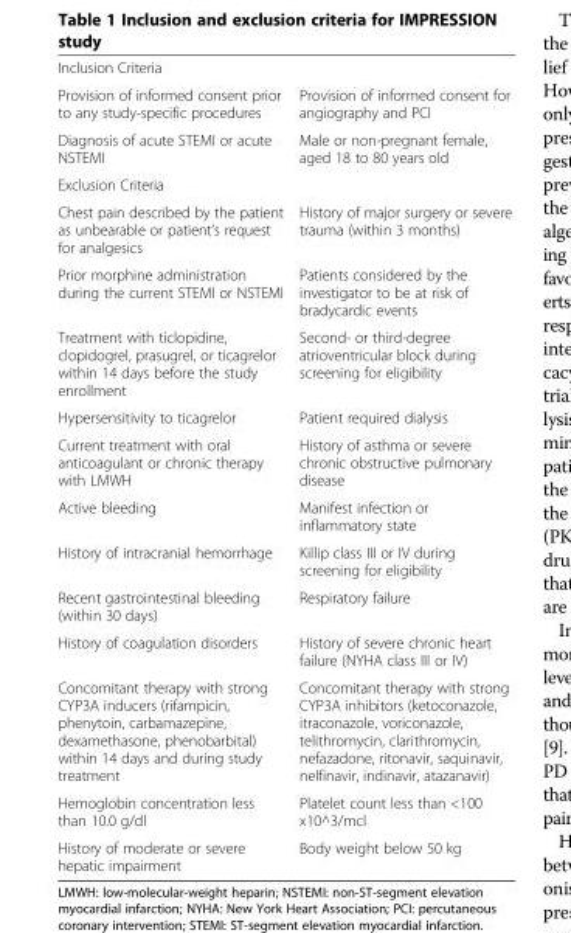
<table><tbody><tr><td colspan="2">Inclusion Criteria</td></tr><tr><td>Provision of informed consent prior to any study-specific procedures</td><td>Provision of informed consent for angiography and PCI</td></tr><tr><td>Diagnosis of acute STEMI or acute NSTEMI</td><td>Male or non-pregnant female, aged 18 to 80 years old</td></tr><tr><td colspan="2">Exclusion Criteria</td></tr><tr><td>Chest pain described by the patient as unbearable or patient’s request for analgesics</td><td>History of major surgery or severe trauma (within 3 months)</td></tr><tr><td>Prior morphine administration during the current STEMI or NSTEMI</td><td>Patients considered by the investigator to be at risk of bradycardic events</td></tr><tr><td>Treatment with ticlopidine, clopidogrel, prasugrel, or ticagrelor within 14 days before the study enrollment</td><td>Second- or third-degree atrioventricular block during screening for eligibility</td></tr><tr><td>Hypersensitivity to ticagrelor</td><td>Patient required dialysis</td></tr><tr><td>Current treatment with oral anticoagulant or chronic therapy with LMWH</td><td>History of asthma or severe chronic obstructive pulmonary disease</td></tr><tr><td>Active bleeding</td><td>Manifest infection or inflammatory state</td></tr><tr><td>History of intracranial hemorrhage</td><td>Killip class III or IV during screening for eligibility</td></tr><tr><td>Recent gastrointestinal bleeding (within 30 days)</td><td>Respiratory failure</td></tr><tr><td>History of coagulation disorders</td><td>History of severe chronic heart failure (NYHA class III or IV)</td></tr><tr><td>Concomitant therapy with strong CYP3A inducers (rifampicin, phenytoin, carbamazepine, dexamethasone, phenobarbital) within 14 days and during study treatment</td><td>Concomitant therapy with strong CYP3A inhibitors (ketoconazole, itraconazole, voriconazole, telithromycin, clarithromycin, nefazadone, ritonavir, saquinavir, nelfinavir, indinavir, atazanavir)</td></tr><tr><td>Hemoglobin concentration less than 10.0 g/dl</td><td>Platelet count less than &lt;100 x10^3/mcl</td></tr><tr><td>History of moderate or severe hepatic impairment</td><td>Body weight below 50 kg</td></tr></tbody></table>